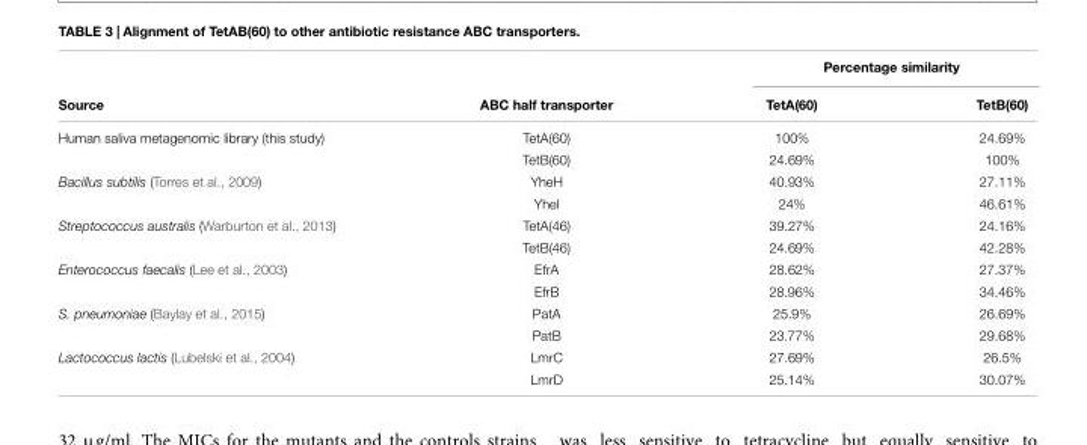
<table><thead><tr><td rowspan="2">Source</td><td rowspan="2">ABC half transporter</td><td colspan="2">Percentage similarity</td></tr><tr><td>TetA(60)</td><td>TetB(60)</td></tr></thead><tbody><tr><td rowspan="2">Human saliva metagenomic library (this study)</td><td>TetA(60)</td><td>100%</td><td>24.69%</td></tr><tr><td>TetB(60)</td><td>24.69%</td><td>100%</td></tr><tr><td rowspan="2">Bacillus subtilis (Torres et al., 2009)</td><td>YheH</td><td>40.93%</td><td>27.11%</td></tr><tr><td>YheI</td><td>24%</td><td>46.61%</td></tr><tr><td rowspan="2">Streptococcus australis (Warburton et al., 2013)</td><td>TetA(46)</td><td>39.27%</td><td>24.16%</td></tr><tr><td>TetB(46)</td><td>24.69%</td><td>42.28%</td></tr><tr><td rowspan="2">Enterococcus faecalis (Lee et al., 2003)</td><td>EfrA</td><td>28.62%</td><td>27.37%</td></tr><tr><td>EfrB</td><td>28.96%</td><td>34.46%</td></tr><tr><td rowspan="2">S. pneumoniae (Baylay et al., 2015)</td><td>PatA</td><td>25.9%</td><td>26.69%</td></tr><tr><td>PatB</td><td>23.77%</td><td>29.68%</td></tr><tr><td rowspan="2">Lactococcus lactis (Lubelski et al., 2004)</td><td>LmrC</td><td>27.69%</td><td>26.5%</td></tr><tr><td>LmrD</td><td>25.14%</td><td>30.07%</td></tr></tbody></table>